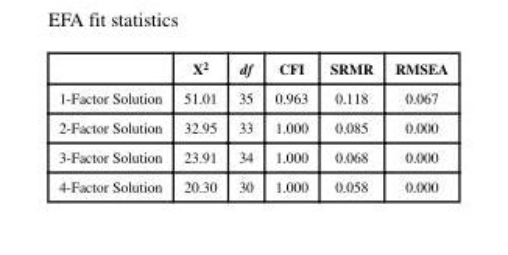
<table><thead><tr><td></td><td>X<sup>2</sup></td><td>df</td><td>CFI</td><td>SRMR</td><td>RMSEA</td></tr></thead><tbody><tr><td>1-Factor Solution</td><td>51.01</td><td>35</td><td>0.963</td><td>0.118</td><td>0.067</td></tr><tr><td>2-Factor Solution</td><td>32.95</td><td>33</td><td>1.000</td><td>0.085</td><td>0.000</td></tr><tr><td>3-Factor Solution</td><td>23.91</td><td>34</td><td>1.000</td><td>0.068</td><td>0.000</td></tr><tr><td>4-Factor Solution</td><td>20.30</td><td>30</td><td>1.000</td><td>0.058</td><td>0.000</td></tr></tbody></table>